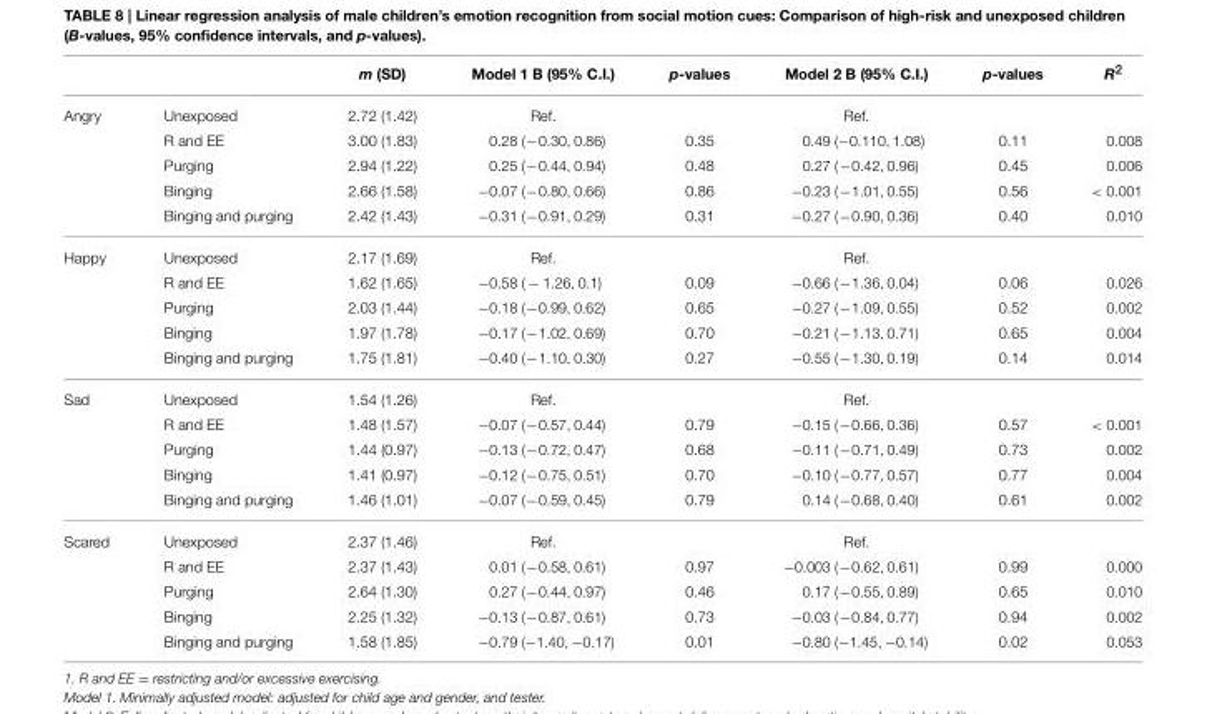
<table><thead><tr><td></td><td></td><td>m (SD)</td><td>Model 1 B (95% C.I.)</td><td>p-values</td><td>Model 2 B (95% C.I.)</td><td>p-values</td><td>R<sup>2</sup></td></tr></thead><tbody><tr><td rowspan="5">Angry</td><td>Unexposed</td><td>2.72 (1.42)</td><td>Ref.</td><td></td><td>Ref.</td><td></td><td></td></tr><tr><td>R and EE</td><td>3.00 (1.83)</td><td>0.28 (−0.30, 0.86)</td><td>0.35</td><td>0.49 (−0.110, 1.08)</td><td>0.11</td><td>0.008</td></tr><tr><td>Purging</td><td>2.94 (1.22)</td><td>0.25 (−0.44, 0.94)</td><td>0.48</td><td>0.27 (−0.42, 0.96)</td><td>0.45</td><td>0.006</td></tr><tr><td>Binging</td><td>2.66 (1.58)</td><td>−0.07 (−0.80, 0.66)</td><td>0.86</td><td>−0.23 (−1.01, 0.55)</td><td>0.56</td><td>&lt; 0.001</td></tr><tr><td>Binging and purging</td><td>2.42 (1.43)</td><td>−0.31 (−0.91, 0.29)</td><td>0.31</td><td>−0.27 (−0.90, 0.36)</td><td>0.40</td><td>0.010</td></tr><tr><td rowspan="5">Happy</td><td>Unexposed</td><td>2.17 (1.69)</td><td>Ref.</td><td></td><td>Ref.</td><td></td><td></td></tr><tr><td>R and EE</td><td>1.62 (1.65)</td><td>−0.58 ( − 1.26, 0.1)</td><td>0.09</td><td>−0.66 (−1.36, 0.04)</td><td>0.06</td><td>0.026</td></tr><tr><td>Purging</td><td>2.03 (1.44)</td><td>−0.18 (−0.99, 0.62)</td><td>0.65</td><td>−0.27 (−1.09, 0.55)</td><td>0.52</td><td>0.002</td></tr><tr><td>Binging</td><td>1.97 (1.78)</td><td>−0.17 (−1.02, 0.69)</td><td>0.70</td><td>−0.21 (−1.13, 0.71)</td><td>0.65</td><td>0.004</td></tr><tr><td>Binging and purging</td><td>1.75 (1.81)</td><td>−0.40 (−1.10, 0.30)</td><td>0.27</td><td>−0.55 (−1.30, 0.19)</td><td>0.14</td><td>0.014</td></tr><tr><td rowspan="5">Sad</td><td>Unexposed</td><td>1.54 (1.26)</td><td>Ref.</td><td></td><td>Ref.</td><td></td><td></td></tr><tr><td>R and EE</td><td>1.48 (1.57)</td><td>−0.07 (−0.57, 0.44)</td><td>0.79</td><td>−0.15 (−0.66, 0.36)</td><td>0.57</td><td>&lt; 0.001</td></tr><tr><td>Purging</td><td>1.44 (0.97)</td><td>−0.13 (−0.72, 0.47)</td><td>0.68</td><td>−0.11 (−0.71, 0.49)</td><td>0.73</td><td>0.002</td></tr><tr><td>Binging</td><td>1.41 (0.97)</td><td>−0.12 (−0.75, 0.51)</td><td>0.70</td><td>−0.10 (−0.77, 0.57)</td><td>0.77</td><td>0.004</td></tr><tr><td>Binging and purging</td><td>1.46 (1.01)</td><td>−0.07 (−0.59, 0.45)</td><td>0.79</td><td>0.14 (−0.68, 0.40)</td><td>0.61</td><td>0.002</td></tr><tr><td rowspan="5">Scared</td><td>Unexposed</td><td>2.37 (1.46)</td><td>Ref.</td><td></td><td>Ref.</td><td></td><td></td></tr><tr><td>R and EE</td><td>2.37 (1.43)</td><td>0.01 (−0.58, 0.61)</td><td>0.97</td><td>−0.003 (−0.62, 0.61)</td><td>0.99</td><td>0.000</td></tr><tr><td>Purging</td><td>2.64 (1.30)</td><td>0.27 (−0.44, 0.97)</td><td>0.46</td><td>0.17 (−0.55, 0.89)</td><td>0.65</td><td>0.010</td></tr><tr><td>Binging</td><td>2.25 (1.32)</td><td>−0.13 (−0.87, 0.61)</td><td>0.73</td><td>−0.03 (−0.84, 0.77)</td><td>0.94</td><td>0.002</td></tr><tr><td>Binging and purging</td><td>1.58 (1.85)</td><td>−0.79 (−1.40, −0.17)</td><td>0.01</td><td>−0.80 (−1.45, −0.14)</td><td>0.02</td><td>0.053</td></tr></tbody></table>